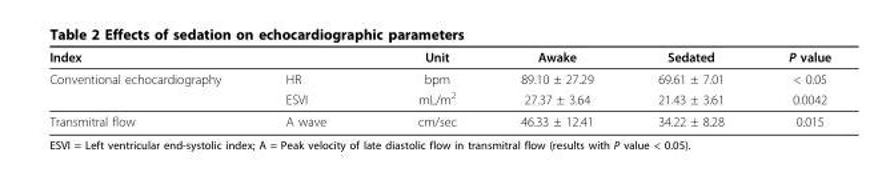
<table><thead><tr><td colspan="2">Index</td><td rowspan="2">Unit bpm</td><td rowspan="2">Awake 89.10 ± 27.29</td><td rowspan="2">Sedated 69.61 ± 7.01</td><td rowspan="2">P value &lt; 0.05</td></tr><tr><td>Conventional echocardiography</td><td>HR</td></tr></thead><tbody><tr><td></td><td>ESVI</td><td>mL/m<sup>2</sup></td><td>27.37 ± 3.64</td><td>21.43 ± 3.61</td><td>0.0042</td></tr><tr><td>Transmitral flow</td><td>A wave</td><td>cm/sec</td><td>46.33 ± 12.41</td><td>34.22 ± 8.28</td><td>0.015</td></tr></tbody></table>